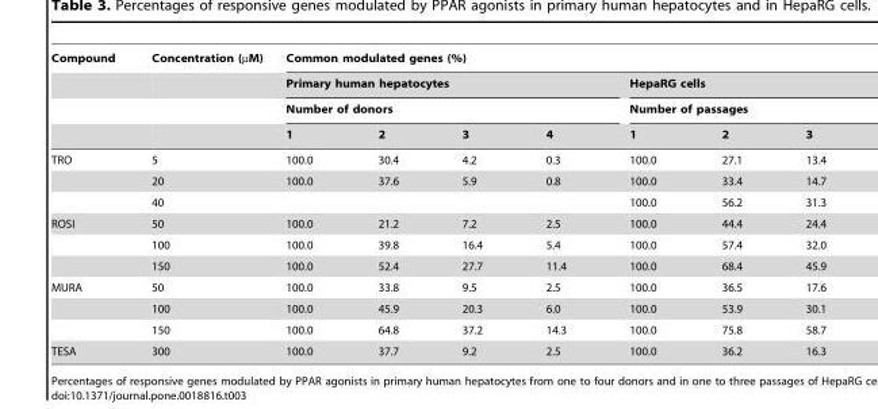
<table><thead><tr><td rowspan="4">Compound</td><td rowspan="4">Concentration (µM)</td><td colspan="7">Common modulated genes (%)</td></tr><tr><td rowspan="2" colspan="4">Primary human hepatocytes Number of donors</td><td rowspan="2" colspan="3">HepaRG cells Number of passages</td></tr><tr></tr><tr><td>1</td><td>2</td><td>3</td><td>4</td><td>1</td><td>2</td><td>3</td></tr></thead><tbody><tr><td rowspan="3">TRO</td><td>5</td><td>100.0</td><td>30.4</td><td>4.2</td><td>0.3</td><td>100.0</td><td>27.1</td><td>13.4</td></tr><tr><td>20</td><td>100.0</td><td>37.6</td><td>5.9</td><td>0.8</td><td>100.0</td><td>33.4</td><td>14.7</td></tr><tr><td>40</td><td></td><td></td><td></td><td></td><td>100.0</td><td>56.2</td><td>31.3</td></tr><tr><td rowspan="3">ROSI</td><td>50</td><td>100.0</td><td>21.2</td><td>7.2</td><td>2.5</td><td>100.0</td><td>44.4</td><td>24.4</td></tr><tr><td>100</td><td>100.0</td><td>39.8</td><td>16.4</td><td>5.4</td><td>100.0</td><td>57.4</td><td>32.0</td></tr><tr><td>150</td><td>100.0</td><td>52.4</td><td>27.7</td><td>11.4</td><td>100.0</td><td>68.4</td><td>45.9</td></tr><tr><td rowspan="3">MURA</td><td>50</td><td>100.0</td><td>33.8</td><td>9.5</td><td>2.5</td><td>100.0</td><td>36.5</td><td>17.6</td></tr><tr><td>100</td><td>100.0</td><td>45.9</td><td>20.3</td><td>6.0</td><td>100.0</td><td>53.9</td><td>30.1</td></tr><tr><td>150</td><td>100.0</td><td>64.8</td><td>37.2</td><td>14.3</td><td>100.0</td><td>75.8</td><td>58.7</td></tr><tr><td>TESA</td><td>300</td><td>100.0</td><td>37.7</td><td>9.2</td><td>2.5</td><td>100.0</td><td>36.2</td><td>16.3</td></tr></tbody></table>